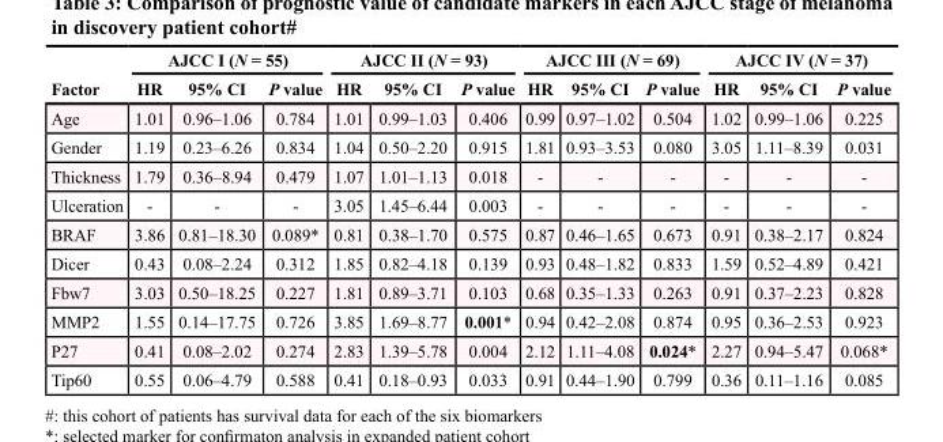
<table><thead><tr><td rowspan="2">Factor</td><td colspan="3">AJCC I (N = 55)</td><td colspan="3">AJCC II (N = 93)</td><td colspan="3">AJCC III (N = 69)</td><td colspan="3">AJCC IV (N = 37)</td></tr><tr><td>HR</td><td>95% CI</td><td>P value</td><td>HR</td><td>95% CI</td><td>P value</td><td>HR</td><td>95% CI</td><td>P value</td><td>HR</td><td>95% CI</td><td>P value</td></tr></thead><tbody><tr><td>Age</td><td>1.01</td><td>0.96–1.06</td><td>0.784</td><td>1.01</td><td>0.99–1.03</td><td>0.406</td><td>0.99</td><td>0.97–1.02</td><td>0.504</td><td>1.02</td><td>0.99–1.06</td><td>0.225</td></tr><tr><td>Gender</td><td>1.19</td><td>0.23–6.26</td><td>0.834</td><td>1.04</td><td>0.50–2.20</td><td>0.915</td><td>1.81</td><td>0.93–3.53</td><td>0.080</td><td>3.05</td><td>1.11–8.39</td><td>0.031</td></tr><tr><td>Thickness</td><td>1.79</td><td>0.36–8.94</td><td>0.479</td><td>1.07</td><td>1.01–1.13</td><td>0.018</td><td>-</td><td>-</td><td>-</td><td>-</td><td>-</td><td>-</td></tr><tr><td>Ulceration</td><td>-</td><td>-</td><td>-</td><td>3.05</td><td>1.45–6.44</td><td>0.003</td><td>-</td><td>-</td><td>-</td><td>-</td><td>-</td><td>-</td></tr><tr><td>BRAF</td><td>3.86</td><td>0.81–18.30</td><td>0.089*</td><td>0.81</td><td>0.38–1.70</td><td>0.575</td><td>0.87</td><td>0.46–1.65</td><td>0.673</td><td>0.91</td><td>0.38–2.17</td><td>0.824</td></tr><tr><td>Dicer</td><td>0.43</td><td>0.08–2.24</td><td>0.312</td><td>1.85</td><td>0.82–4.18</td><td>0.139</td><td>0.93</td><td>0.48–1.82</td><td>0.833</td><td>1.59</td><td>0.52–4.89</td><td>0.421</td></tr><tr><td>Fbw7</td><td>3.03</td><td>0.50–18.25</td><td>0.227</td><td>1.81</td><td>0.89–3.71</td><td>0.103</td><td>0.68</td><td>0.35–1.33</td><td>0.263</td><td>0.91</td><td>0.37–2.23</td><td>0.828</td></tr><tr><td>MMP2</td><td>1.55</td><td>0.14–17.75</td><td>0.726</td><td>3.85</td><td>1.69–8.77</td><td>0.001*</td><td>0.94</td><td>0.42–2.08</td><td>0.874</td><td>0.95</td><td>0.36–2.53</td><td>0.923</td></tr><tr><td>P27</td><td>0.41</td><td>0.08–2.02</td><td>0.274</td><td>2.83</td><td>1.39–5.78</td><td>0.004</td><td>2.12</td><td>1.11–4.08</td><td>0.024*</td><td>2.27</td><td>0.94–5.47</td><td>0.068*</td></tr><tr><td>Tip60</td><td>0.55</td><td>0.06–4.79</td><td>0.588</td><td>0.41</td><td>0.18–0.93</td><td>0.033</td><td>0.91</td><td>0.44–1.90</td><td>0.799</td><td>0.36</td><td>0.11–1.16</td><td>0.085</td></tr></tbody></table>